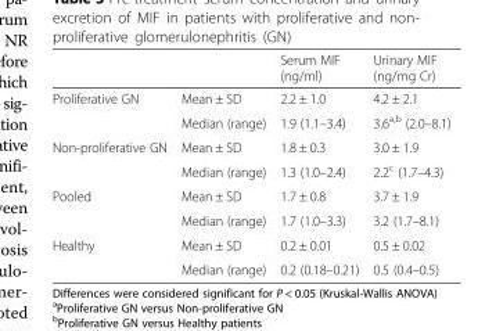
<table><thead><tr><td></td><td></td><td>Serum MIF (ng/ml)</td><td>Urinary MIF (ng/mg Cr)</td></tr></thead><tbody><tr><td rowspan="2">Proliferative GN</td><td>Mean ± SD</td><td>2.2 ± 1.0</td><td>4.2 ± 2.1</td></tr><tr><td>Median (range)</td><td>1.9 (1.1–3.4)</td><td>3.6<sup>a,b</sup> (2.0–8.1)</td></tr><tr><td rowspan="2">Non-proliferative GN</td><td>Mean ± SD</td><td>1.8 ± 0.3</td><td>3.0 ± 1.9</td></tr><tr><td>Median (range)</td><td>1.3 (1.0–2.4)</td><td>2.2<sup>c</sup> (1.7–4.3)</td></tr><tr><td rowspan="2">Pooled</td><td>Mean ± SD</td><td>1.7 ± 0.8</td><td>3.7 ± 1.9</td></tr><tr><td>Median (range)</td><td>1.7 (1.0–3.3)</td><td>3.2 (1.7–8.1)</td></tr><tr><td rowspan="2">Healthy</td><td>Mean ± SD</td><td>0.2 ± 0.01</td><td>0.5 ± 0.02</td></tr><tr><td>Median (range)</td><td>0.2 (0.18–0.21)</td><td>0.5 (0.4–0.5)</td></tr></tbody></table>